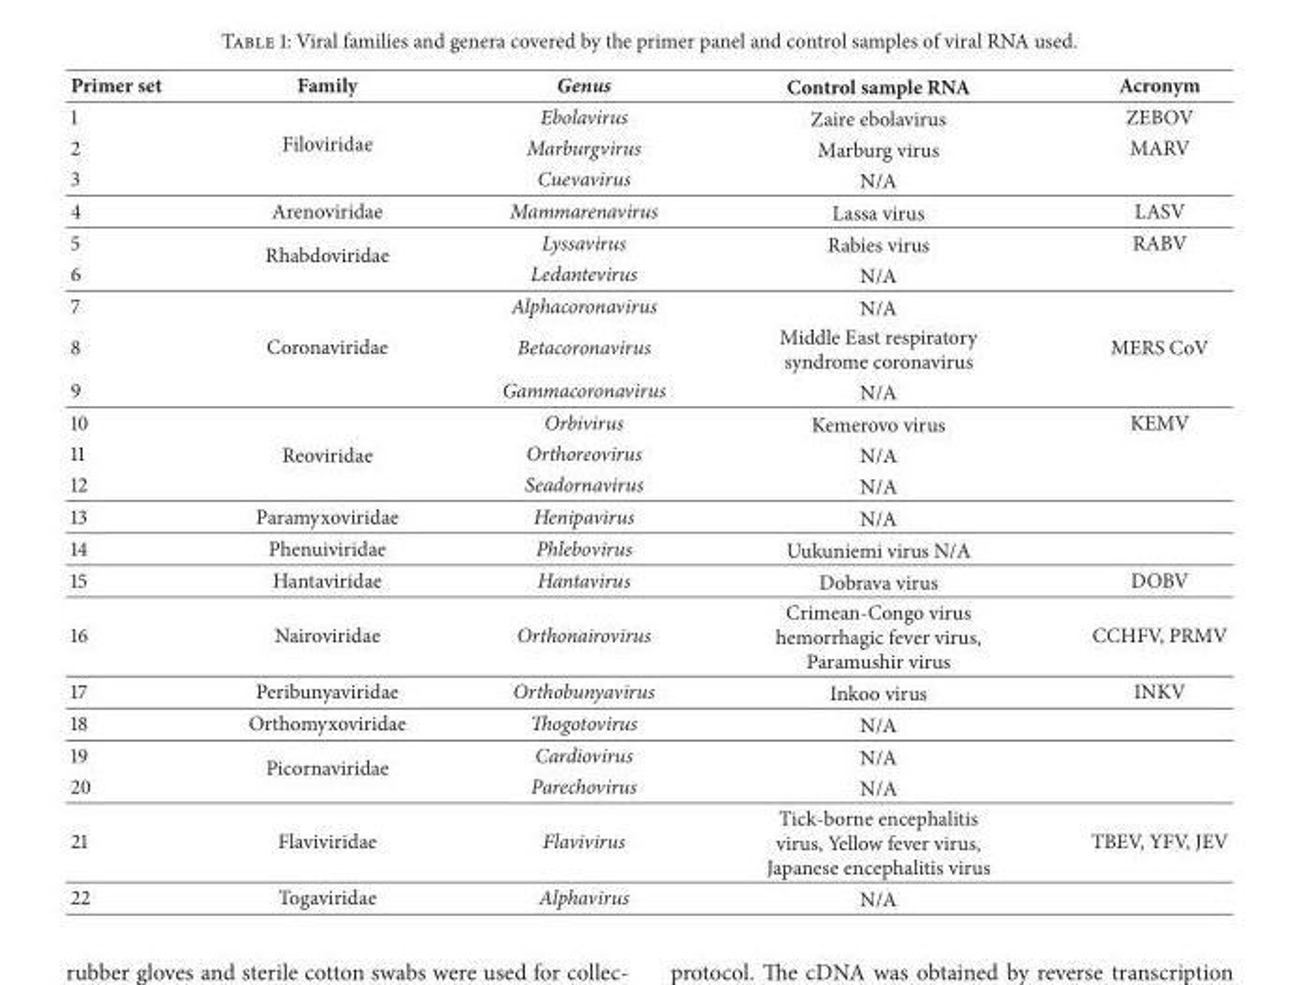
<table><thead><tr><td>Primer set</td><td>Family</td><td>Genus</td><td>Control sample RNA</td><td>Acronym</td></tr></thead><tbody><tr><td>1</td><td rowspan="3">Filoviridae</td><td>Ebolavirus</td><td>Zaire ebolavirus</td><td>ZEBOV</td></tr><tr><td>2</td><td>Marburgvirus</td><td>Marburg virus</td><td>MARV</td></tr><tr><td>3</td><td>Cuevavirus</td><td>N/A</td><td></td></tr><tr><td>4</td><td>Arenoviridae</td><td>Mammarenavirus</td><td>Lassa virus</td><td>LASV</td></tr><tr><td>5</td><td rowspan="2">Rhabdoviridae</td><td>Lyssavirus</td><td>Rabies virus</td><td>RABV</td></tr><tr><td>6</td><td>Ledantevirus</td><td>N/A</td><td></td></tr><tr><td>7</td><td rowspan="3">Coronaviridae</td><td>Alphacoronavirus</td><td>N/A</td><td></td></tr><tr><td>8</td><td>Betacoronavirus</td><td>Middle East respiratory syndrome coronavirus</td><td>MERS CoV</td></tr><tr><td>9</td><td>Gammacoronavirus</td><td>N/A</td><td></td></tr><tr><td>10</td><td rowspan="3">Reoviridae</td><td>Orbivirus</td><td>Kemerovo virus</td><td>KEMV</td></tr><tr><td>11</td><td>Orthoreovirus</td><td>N/A</td><td></td></tr><tr><td>12</td><td>Seadornavirus</td><td>N/A</td><td></td></tr><tr><td>13</td><td>Paramyxoviridae</td><td>Henipavirus</td><td>N/A</td><td></td></tr><tr><td>14</td><td>Phenuiviridae</td><td>Phlebovirus</td><td>Uukuniemi virus N/A</td><td></td></tr><tr><td>15</td><td>Hantaviridae</td><td>Hantavirus</td><td>Dobrava virus</td><td>DOBV</td></tr><tr><td>16</td><td>Nairoviridae</td><td>Orthonairovirus</td><td>Crimean-Congo virus hemorrhagic fever virus, Paramushir virus</td><td>CCHFV, PRMV</td></tr><tr><td>17</td><td>Peribunyaviridae</td><td>Orthobunyavirus</td><td>Inkoo virus</td><td>INKV</td></tr><tr><td>18</td><td>Orthomyxoviridae</td><td>Thogotovirus</td><td>N/A</td><td></td></tr><tr><td>19</td><td rowspan="2">Picornaviridae</td><td>Cardiovirus</td><td>N/A</td><td></td></tr><tr><td>20</td><td>Parechovirus</td><td>N/A</td><td></td></tr><tr><td>21</td><td>Flaviviridae</td><td>Flavivirus</td><td>Tick-borne encephalitis virus, Yellow fever virus, Japanese encephalitis virus</td><td>TBEV, YFV, JEV</td></tr><tr><td>22</td><td>Togaviridae</td><td>Alphavirus</td><td>N/A</td><td></td></tr></tbody></table>